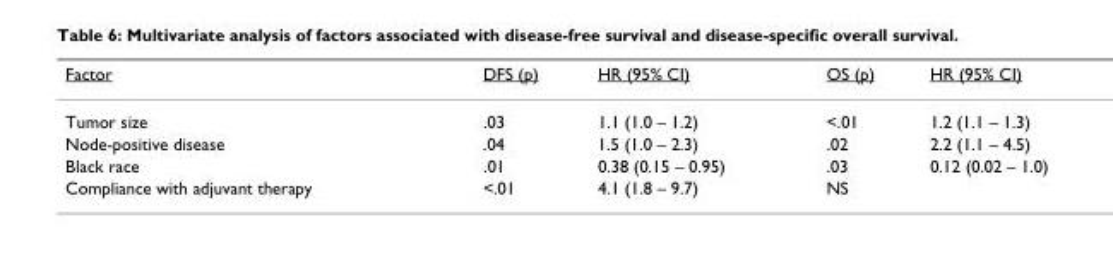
<table><thead><tr><td>Factor</td><td>DFS (p)</td><td>HR (95% CI)</td><td>OS (p)</td><td>HR (95% CI)</td></tr></thead><tbody><tr><td>Tumor size</td><td>.03</td><td>1.1 (1.0 – 1.2)</td><td>&lt;.01</td><td>1.2 (1.1 – 1.3)</td></tr><tr><td>Node-positive disease</td><td>.04</td><td>1.5 (1.0 – 2.3)</td><td>.02</td><td>2.2 (1.1 – 4.5)</td></tr><tr><td>Black race</td><td>.01</td><td>0.38 (0.15 – 0.95)</td><td>.03</td><td>0.12 (0.02 – 1.0)</td></tr><tr><td>Compliance with adjuvant therapy</td><td>&lt;.01</td><td>4.1 (1.8 – 9.7)</td><td>NS</td><td></td></tr></tbody></table>